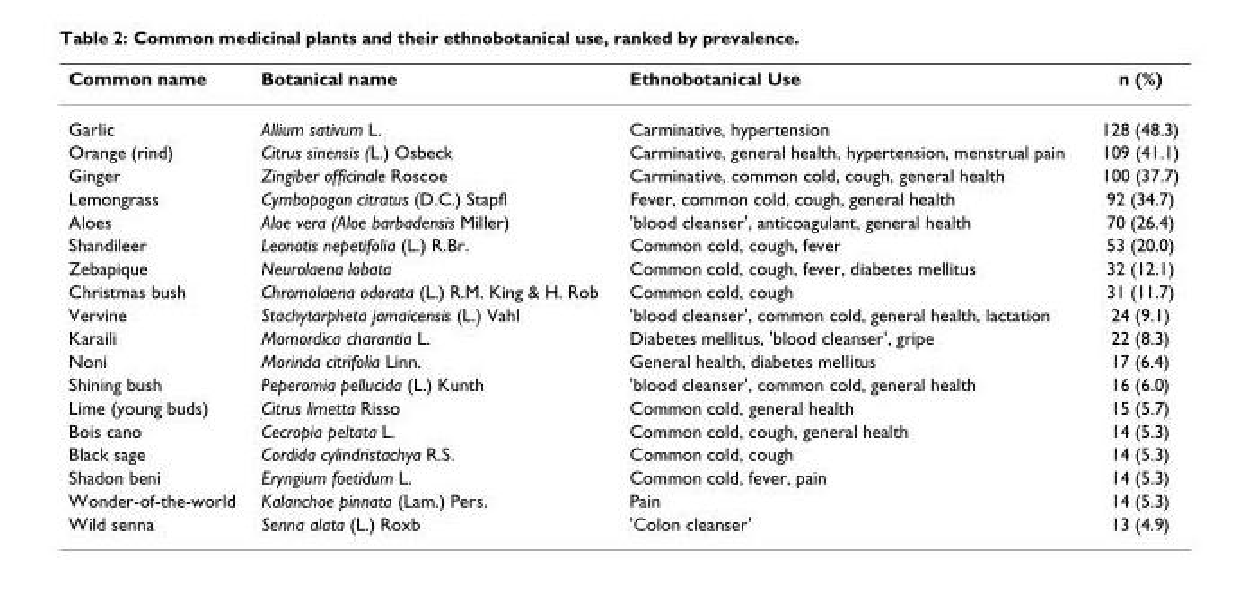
<table><thead><tr><td>Common name</td><td>Botanical name</td><td>Ethnobotanical Use</td><td>n (%)</td></tr></thead><tbody><tr><td>Garlic</td><td>Allium sativum L.</td><td>Carminative, hypertension</td><td>128 (48.3)</td></tr><tr><td>Orange (rind)</td><td>Citrus sinensis (L.) Osbeck</td><td>Carminative, general health, hypertension, menstrual pain</td><td>109 (41.1)</td></tr><tr><td>Ginger</td><td>Zingiber officinale Roscoe</td><td>Carminative, common cold, cough, general health</td><td>100 (37.7)</td></tr><tr><td>Lemongrass</td><td>Cymbopogon citratus (D.C.) Stapfl</td><td>Fever, common cold, cough, general health</td><td>92 (34.7)</td></tr><tr><td>Aloes</td><td>Aloe vera (Aloe barbadensis Miller)</td><td>&#x27;blood cleanser&#x27;, anticoagulant, general health</td><td>70 (26.4)</td></tr><tr><td>Shandileer</td><td>Leonotis nepetifolia (L.) R.Br.</td><td>Common cold, cough, fever</td><td>53 (20.0)</td></tr><tr><td>Zebapique</td><td>Neurolaena lobata</td><td>Common cold, cough, fever, diabetes mellitus</td><td>32 (12.1)</td></tr><tr><td>Christmas bush</td><td>Chromolaena odorata (L.) R.M. King &amp; H. Rob</td><td>Common cold, cough</td><td>31 (11.7)</td></tr><tr><td>Vervine</td><td>Stachytarpheta jamaicensis (L.) Vahl</td><td>&#x27;blood cleanser&#x27;, common cold, general health, lactation</td><td>24 (9.1)</td></tr><tr><td>Karaili</td><td>Momordica charantia L.</td><td>Diabetes mellitus, &#x27;blood cleanser&#x27;, gripe</td><td>22 (8.3)</td></tr><tr><td>Noni</td><td>Morinda citrifolia Linn.</td><td>General health, diabetes mellitus</td><td>17 (6.4)</td></tr><tr><td>Shining bush</td><td>Peperomia pellucida (L.) Kunth</td><td>&#x27;blood cleanser&#x27;, common cold, general health</td><td>16 (6.0)</td></tr><tr><td>Lime (young buds)</td><td>Citrus limetta Risso</td><td>Common cold, general health</td><td>15 (5.7)</td></tr><tr><td>Bois cano</td><td>Cecropia peltata L.</td><td>Common cold, cough, general health</td><td>14 (5.3)</td></tr><tr><td>Black sage</td><td>Cordida cylindristachya R.S.</td><td>Common cold, cough</td><td>14 (5.3)</td></tr><tr><td>Shadon beni</td><td>Eryngium foetidum L.</td><td>Common cold, fever, pain</td><td>14 (5.3)</td></tr><tr><td>Wonder-of-the-world</td><td>Kalanchoe pinnata (Lam.) Pers.</td><td>Pain</td><td>14 (5.3)</td></tr><tr><td>Wild senna</td><td>Senna alata (L.) Roxb</td><td>&#x27;Colon cleanser&#x27;</td><td>13 (4.9)</td></tr></tbody></table>